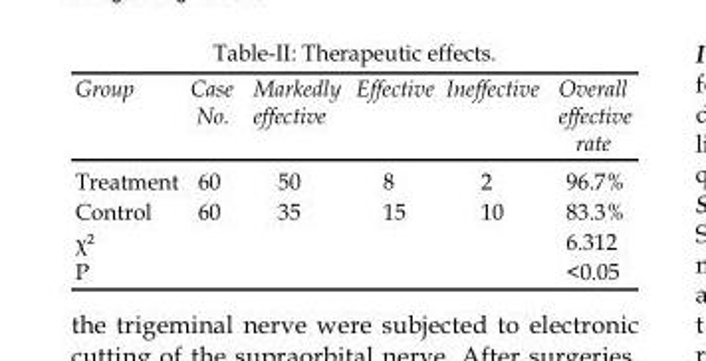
<table><thead><tr><td>Group</td><td>Case No.</td><td>Markedly effective</td><td>Effective</td><td>Ineffective</td><td>Overall effective rate</td></tr></thead><tbody><tr><td>Treatment</td><td>60</td><td>50</td><td>8</td><td>2</td><td>96.7%</td></tr><tr><td>Control</td><td>60</td><td>35</td><td>15</td><td>10</td><td>83.3%</td></tr><tr><td>χ²</td><td></td><td></td><td></td><td></td><td>6.312</td></tr><tr><td>P</td><td></td><td></td><td></td><td></td><td>&lt;0.05</td></tr></tbody></table>